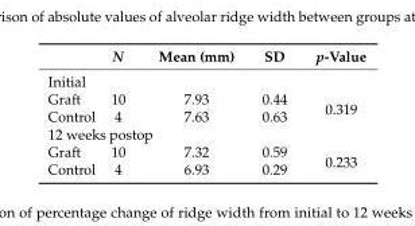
<table><thead><tr><td></td><td>N</td><td>Mean (mm)</td><td>SD</td><td>p-Value</td></tr></thead><tbody><tr><td colspan="5">Initial</td></tr><tr><td>Graft</td><td>10</td><td>7.93</td><td>0.44</td><td rowspan="2">0.319</td></tr><tr><td>Control</td><td>4</td><td>7.63</td><td>0.63</td></tr><tr><td colspan="5">12 weeks postop</td></tr><tr><td>Graft</td><td>10</td><td>7.32</td><td>0.59</td><td rowspan="2">0.233</td></tr><tr><td>Control</td><td>4</td><td>6.93</td><td>0.29</td></tr></tbody></table>